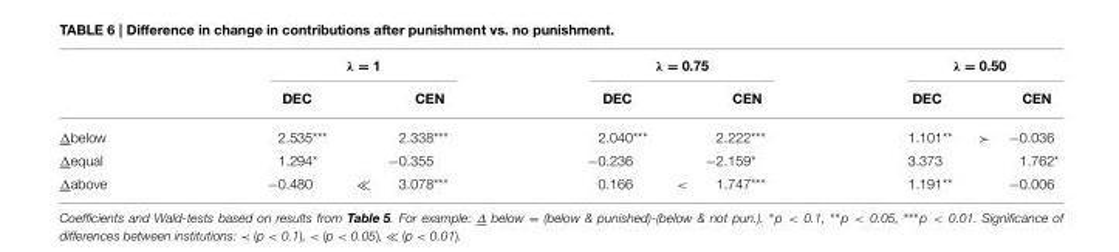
<table><thead><tr><td rowspan="2"></td><td colspan="3">λ = 1</td><td colspan="3">λ = 0.75</td><td colspan="3">λ = 0.50</td></tr><tr><td>DEC</td><td></td><td>CEN</td><td>DEC</td><td></td><td>CEN</td><td>DEC</td><td></td><td>CEN</td></tr></thead><tbody><tr><td>Δbelow</td><td>2.535***</td><td></td><td>2.338***</td><td>2.040***</td><td></td><td>2.222***</td><td>1.101**</td><td>≻</td><td>−0.036</td></tr><tr><td>Δequal</td><td>1.294*</td><td></td><td>−0.355</td><td>−0.236</td><td></td><td>−2.159*</td><td>3.373</td><td></td><td>1.762*</td></tr><tr><td>Δabove</td><td>−0.480</td><td>≪</td><td>3.078***</td><td>0.166</td><td>&lt;</td><td>1.747***</td><td>1.191**</td><td></td><td>−0.006</td></tr></tbody></table>